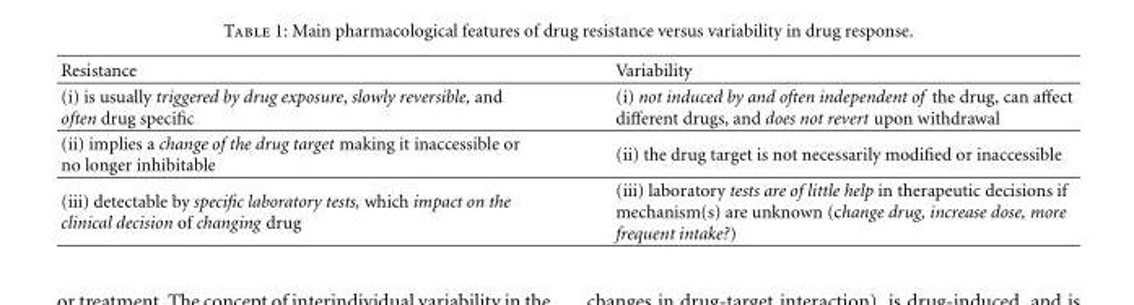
<table><thead><tr><td>Resistance</td><td>Variability</td></tr></thead><tbody><tr><td>(i) is usually triggered by drug exposure, slowly reversible, and often drug specific</td><td>(i) not induced by and often independent of the drug, can affect different drugs, and does not revert upon withdrawal</td></tr><tr><td>(ii) implies a change of the drug target making it inaccessible or no longer inhibitable</td><td>(ii) the drug target is not necessarily modified or inaccessible</td></tr><tr><td>(iii) detectable by specific laboratory tests, which impact on the clinical decision of changing drug</td><td>(iii) laboratory tests are of little help in therapeutic decisions if mechanism(s) are unknown (change drug, increase dose, more frequent intake?)</td></tr></tbody></table>